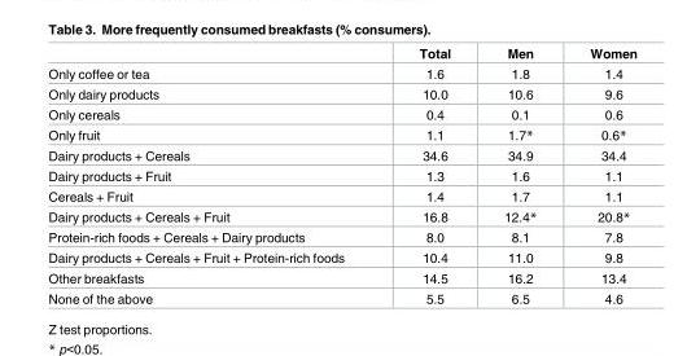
<table><thead><tr><td></td><td>Total</td><td>Men</td><td>Women</td></tr></thead><tbody><tr><td>Only coffee or tea</td><td>1.6</td><td>1.8</td><td>1.4</td></tr><tr><td>Only dairy products</td><td>10.0</td><td>10.6</td><td>9.6</td></tr><tr><td>Only cereals</td><td>0.4</td><td>0.1</td><td>0.6</td></tr><tr><td>Only fruit</td><td>1.1</td><td>1.7*</td><td>0.6*</td></tr><tr><td>Dairy products + Cereals</td><td>34.6</td><td>34.9</td><td>34.4</td></tr><tr><td>Dairy products + Fruit</td><td>1.3</td><td>1.6</td><td>1.1</td></tr><tr><td>Cereals + Fruit</td><td>1.4</td><td>1.7</td><td>1.1</td></tr><tr><td>Dairy products + Cereals + Fruit</td><td>16.8</td><td>12.4*</td><td>20.8*</td></tr><tr><td>Protein-rich foods + Cereals + Dairy products</td><td>8.0</td><td>8.1</td><td>7.8</td></tr><tr><td>Dairy products + Cereals + Fruit + Protein-rich foods</td><td>10.4</td><td>11.0</td><td>9.8</td></tr><tr><td>Other breakfasts</td><td>14.5</td><td>16.2</td><td>13.4</td></tr><tr><td>None of the above</td><td>5.5</td><td>6.5</td><td>4.6</td></tr></tbody></table>